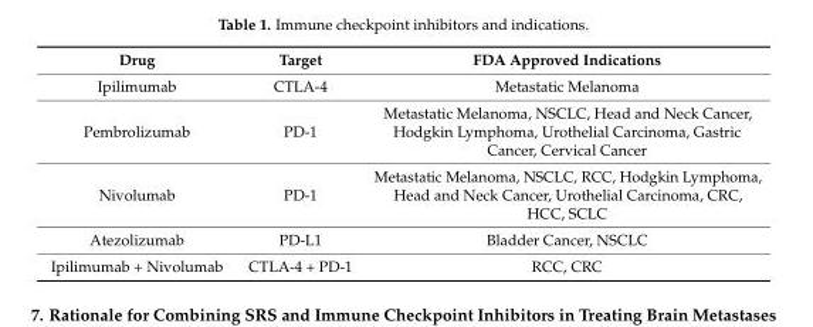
<table><thead><tr><td>Drug</td><td>Target</td><td>FDA Approved Indications</td></tr></thead><tbody><tr><td>Ipilimumab</td><td>CTLA-4</td><td>Metastatic Melanoma</td></tr><tr><td>Pembrolizumab</td><td>PD-1</td><td>Metastatic Melanoma, NSCLC, Head and Neck Cancer, Hodgkin Lymphoma, Urothelial Carcinoma, Gastric Cancer, Cervical Cancer</td></tr><tr><td>Nivolumab</td><td>PD-1</td><td>Metastatic Melanoma, NSCLC, RCC, Hodgkin Lymphoma, Head and Neck Cancer, Urothelial Carcinoma, CRC, HCC, SCLC</td></tr><tr><td>Atezolizumab</td><td>PD-L1</td><td>Bladder Cancer, NSCLC</td></tr><tr><td>Ipilimumab + Nivolumab</td><td>CTLA-4 + PD-1</td><td>RCC, CRC</td></tr></tbody></table>